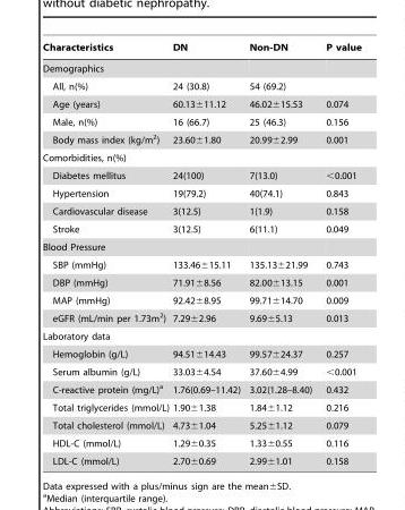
<table><thead><tr><td>Characteristics</td><td>DN</td><td>Non-DN</td><td>P value</td></tr></thead><tbody><tr><td colspan="4">Demographics</td></tr><tr><td>All, n(%)</td><td>24 (30.8)</td><td>54 (69.2)</td><td></td></tr><tr><td>Age (years)</td><td>60.13±11.12</td><td>46.02±15.53</td><td>0.074</td></tr><tr><td>Male, n(%)</td><td>16 (66.7)</td><td>25 (46.3)</td><td>0.156</td></tr><tr><td>Body mass index (kg/m<sup>2</sup>)</td><td>23.60±1.80</td><td>20.99±2.99</td><td>0.001</td></tr><tr><td colspan="4">Comorbidities, n(%)</td></tr><tr><td>Diabetes mellitus</td><td>24(100)</td><td>7(13.0)</td><td>&lt;0.001</td></tr><tr><td>Hypertension</td><td>19(79.2)</td><td>40(74.1)</td><td>0.843</td></tr><tr><td>Cardiovascular disease</td><td>3(12.5)</td><td>1(1.9)</td><td>0.158</td></tr><tr><td>Stroke</td><td>3(12.5)</td><td>6(11.1)</td><td>0.049</td></tr><tr><td colspan="4">Blood Pressure</td></tr><tr><td>SBP (mmHg)</td><td>133.46±15.11</td><td>135.13±21.99</td><td>0.743</td></tr><tr><td>DBP (mmHg)</td><td>71.91±8.56</td><td>82.00±13.15</td><td>0.001</td></tr><tr><td>MAP (mmHg)</td><td>92.42±8.95</td><td>99.71±14.70</td><td>0.009</td></tr><tr><td>eGFR (mL/min per 1.73m<sup>2</sup>)</td><td>7.29±2.96</td><td>9.69±5.13</td><td>0.013</td></tr><tr><td colspan="4">Laboratory data</td></tr><tr><td>Hemoglobin (g/L)</td><td>94.51±14.43</td><td>99.57±24.37</td><td>0.257</td></tr><tr><td>Serum albumin (g/L)</td><td>33.03±4.54</td><td>37.60±4.99</td><td>&lt;0.001</td></tr><tr><td>C-reactive protein (mg/L)<sup>a</sup></td><td>1.76(0.69–11.42)</td><td>3.02(1.28–8.40)</td><td>0.432</td></tr><tr><td>Total triglycerides (mmol/L)</td><td>1.90±1.38</td><td>1.84±1.12</td><td>0.216</td></tr><tr><td>Total cholesterol (mmol/L)</td><td>4.73±1.04</td><td>5.25±1.12</td><td>0.079</td></tr><tr><td>HDL-C (mmol/L)</td><td>1.29±0.35</td><td>1.33±0.55</td><td>0.116</td></tr><tr><td>LDL-C (mmol/L)</td><td>2.70±0.69</td><td>2.99±1.01</td><td>0.158</td></tr></tbody></table>